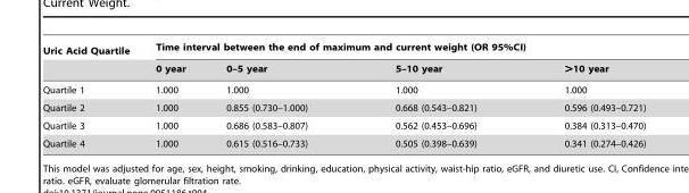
<table><thead><tr><td rowspan="2">Uric Acid Quartile</td><td colspan="4">Time interval between the end of maximum and current weight (OR 95%CI)</td></tr><tr><td>0 year</td><td>0–5 year</td><td>5–10 year</td><td>&gt;10 year</td></tr></thead><tbody><tr><td>Quartile 1</td><td>1.000</td><td>1.000</td><td>1.000</td><td>1.000</td></tr><tr><td>Quartile 2</td><td>1.000</td><td>0.855 (0.730–1.000)</td><td>0.668 (0.543–0.821)</td><td>0.596 (0.493–0.721)</td></tr><tr><td>Quartile 3</td><td>1.000</td><td>0.686 (0.583–0.807)</td><td>0.562 (0.453–0.696)</td><td>0.384 (0.313–0.470)</td></tr><tr><td>Quartile 4</td><td>1.000</td><td>0.615 (0.516–0.733)</td><td>0.505 (0.398–0.639)</td><td>0.341 (0.274–0.426)</td></tr></tbody></table>